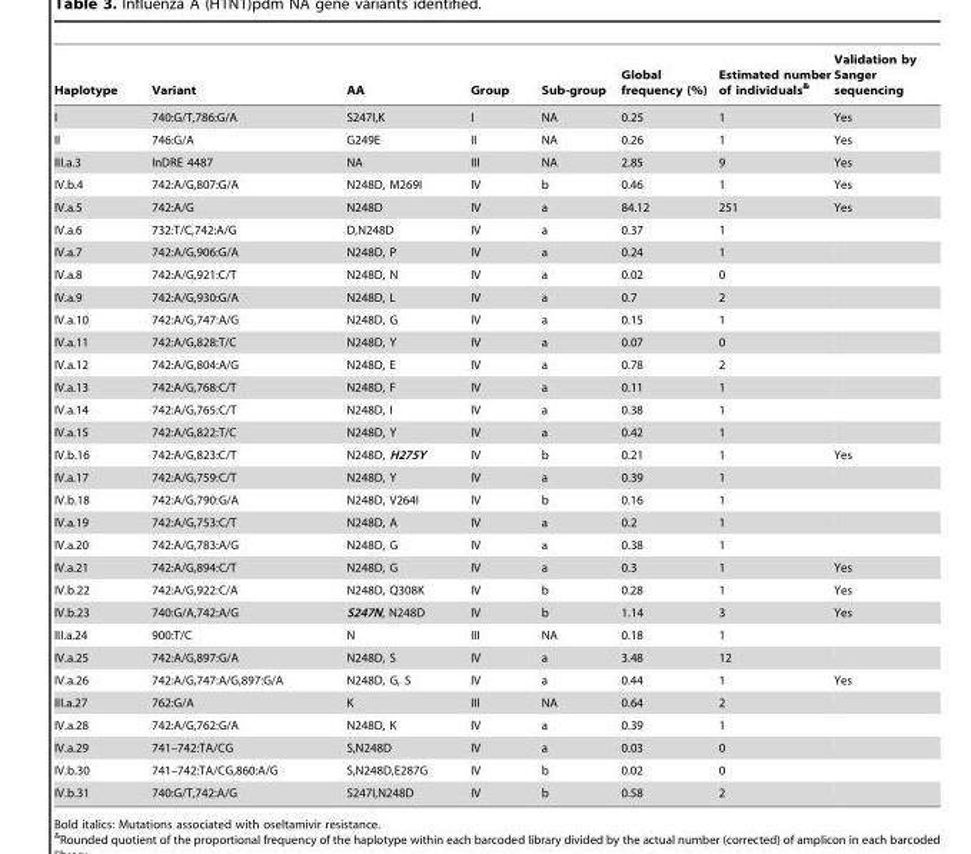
<table><thead><tr><td>Haplotype</td><td>Variant</td><td>AA</td><td>Group</td><td>Sub-group</td><td>Global frequency (%)</td><td>Estimated number of individuals&amp;</td><td>Validation by Sanger sequencing</td></tr></thead><tbody><tr><td>I</td><td>740:G/T,786:G/A</td><td>S247I,K</td><td>I</td><td>NA</td><td>0.25</td><td>1</td><td>Yes</td></tr><tr><td>II</td><td>746:G/A</td><td>G249E</td><td>II</td><td>NA</td><td>0.26</td><td>1</td><td>Yes</td></tr><tr><td>III.a.3</td><td>InDRE 4487</td><td>NA</td><td>III</td><td>NA</td><td>2.85</td><td>9</td><td>Yes</td></tr><tr><td>IV.b.4</td><td>742:A/G,807:G/A</td><td>N248D, M269I</td><td>IV</td><td>b</td><td>0.46</td><td>1</td><td>Yes</td></tr><tr><td>IV.a.5</td><td>742:A/G</td><td>N248D</td><td>IV</td><td>a</td><td>84.12</td><td>251</td><td>Yes</td></tr><tr><td>IV.a.6</td><td>732:T/C,742:A/G</td><td>D,N248D</td><td>IV</td><td>a</td><td>0.37</td><td>1</td><td></td></tr><tr><td>IV.a.7</td><td>742:A/G,906:G/A</td><td>N248D, P</td><td>IV</td><td>a</td><td>0.24</td><td>1</td><td></td></tr><tr><td>IV.a.8</td><td>742:A/G,921:C/T</td><td>N248D, N</td><td>IV</td><td>a</td><td>0.02</td><td>0</td><td></td></tr><tr><td>IV.a.9</td><td>742:A/G,930:G/A</td><td>N248D, L</td><td>IV</td><td>a</td><td>0.7</td><td>2</td><td></td></tr><tr><td>IV.a.10</td><td>742:A/G,747:A/G</td><td>N248D, G</td><td>IV</td><td>a</td><td>0.15</td><td>1</td><td></td></tr><tr><td>IV.a.11</td><td>742:A/G,828:T/C</td><td>N248D, Y</td><td>IV</td><td>a</td><td>0.07</td><td>0</td><td></td></tr><tr><td>IV.a.12</td><td>742:A/G,804:A/G</td><td>N248D, E</td><td>IV</td><td>a</td><td>0.78</td><td>2</td><td></td></tr><tr><td>IV.a.13</td><td>742:A/G,768:C/T</td><td>N248D, F</td><td>IV</td><td>a</td><td>0.11</td><td>1</td><td></td></tr><tr><td>IV.a.14</td><td>742:A/G,765:C/T</td><td>N248D, I</td><td>IV</td><td>a</td><td>0.38</td><td>1</td><td></td></tr><tr><td>IV.a.15</td><td>742:A/G,822:T/C</td><td>N248D, Y</td><td>IV</td><td>a</td><td>0.42</td><td>1</td><td></td></tr><tr><td>IV.b.16</td><td>742:A/G,823:C/T</td><td>N248D, H275Y</td><td>IV</td><td>b</td><td>0.21</td><td>1</td><td>Yes</td></tr><tr><td>IV.a.17</td><td>742:A/G,759:C/T</td><td>N248D, Y</td><td>IV</td><td>a</td><td>0.39</td><td>1</td><td></td></tr><tr><td>IV.b.18</td><td>742:A/G,790:G/A</td><td>N248D, V264I</td><td>IV</td><td>b</td><td>0.16</td><td>1</td><td></td></tr><tr><td>IV.a.19</td><td>742:A/G,753:C/T</td><td>N248D, A</td><td>IV</td><td>a</td><td>0.2</td><td>1</td><td></td></tr><tr><td>IV.a.20</td><td>742:A/G,783:A/G</td><td>N248D, G</td><td>IV</td><td>a</td><td>0.38</td><td>1</td><td></td></tr><tr><td>IV.a.21</td><td>742:A/G,894:C/T</td><td>N248D, G</td><td>IV</td><td>a</td><td>0.3</td><td>1</td><td>Yes</td></tr><tr><td>IV.b.22</td><td>742:A/G,922:C/A</td><td>N248D, Q308K</td><td>IV</td><td>b</td><td>0.28</td><td>1</td><td>Yes</td></tr><tr><td>IV.b.23</td><td>740:G/A,742:A/G</td><td>S247N, N248D</td><td>IV</td><td>b</td><td>1.14</td><td>3</td><td>Yes</td></tr><tr><td>III.a.24</td><td>900:T/C</td><td>N</td><td>III</td><td>NA</td><td>0.18</td><td>1</td><td></td></tr><tr><td>IV.a.25</td><td>742:A/G,897:G/A</td><td>N248D, S</td><td>IV</td><td>a</td><td>3.48</td><td>12</td><td></td></tr><tr><td>IV.a.26</td><td>742:A/G,747:A/G,897:G/A</td><td>N248D, G, S</td><td>IV</td><td>a</td><td>0.44</td><td>1</td><td>Yes</td></tr><tr><td>III.a.27</td><td>762:G/A</td><td>K</td><td>III</td><td>NA</td><td>0.64</td><td>2</td><td></td></tr><tr><td>IV.a.28</td><td>742:A/G,762:G/A</td><td>N248D, K</td><td>IV</td><td>a</td><td>0.39</td><td>1</td><td></td></tr><tr><td>IV.a.29</td><td>741–742:TA/CG</td><td>S,N248D</td><td>IV</td><td>a</td><td>0.03</td><td>0</td><td></td></tr><tr><td>IV.b.30</td><td>741–742:TA/CG,860:A/G</td><td>S,N248D,E287G</td><td>IV</td><td>b</td><td>0.02</td><td>0</td><td></td></tr><tr><td>IV.b.31</td><td>740:G/T,742:A/G</td><td>S247I,N248D</td><td>IV</td><td>b</td><td>0.58</td><td>2</td><td></td></tr></tbody></table>